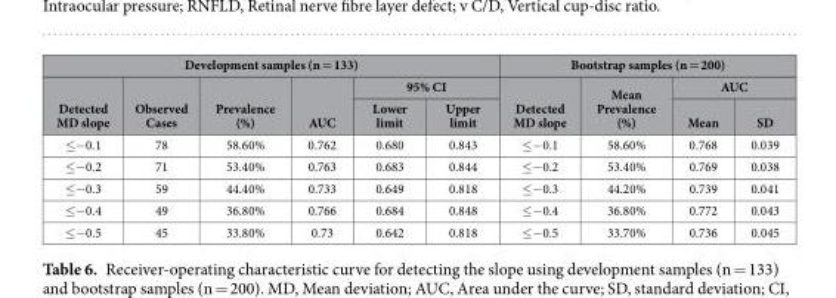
<table><thead><tr><td colspan="6">Development samples (n = 133)</td><td colspan="4">Bootstrap samples (n = 200)</td></tr><tr><td rowspan="2">Detected MD slope</td><td rowspan="2">Observed Cases</td><td rowspan="2">Prevalence (%)</td><td rowspan="2">AUC</td><td colspan="2">95% CI</td><td rowspan="2">Detected MD slope</td><td rowspan="2">Mean Prevalence (%)</td><td colspan="2">AUC</td></tr><tr><td>Lower limit</td><td>Upper limit</td><td>Mean</td><td>SD</td></tr></thead><tbody><tr><td>≤−0.1</td><td>78</td><td>58.60%</td><td>0.762</td><td>0.680</td><td>0.843</td><td>≤−0.1</td><td>58.60%</td><td>0.768</td><td>0.039</td></tr><tr><td>≤−0.2</td><td>71</td><td>53.40%</td><td>0.763</td><td>0.683</td><td>0.844</td><td>≤−0.2</td><td>53.40%</td><td>0.769</td><td>0.038</td></tr><tr><td>≤−0.3</td><td>59</td><td>44.40%</td><td>0.733</td><td>0.649</td><td>0.818</td><td>≤−0.3</td><td>44.20%</td><td>0.739</td><td>0.041</td></tr><tr><td>≤−0.4</td><td>49</td><td>36.80%</td><td>0.766</td><td>0.684</td><td>0.848</td><td>≤−0.4</td><td>36.80%</td><td>0.772</td><td>0.043</td></tr><tr><td>≤−0.5</td><td>45</td><td>33.80%</td><td>0.73</td><td>0.642</td><td>0.818</td><td>≤−0.5</td><td>33.70%</td><td>0.736</td><td>0.045</td></tr></tbody></table>